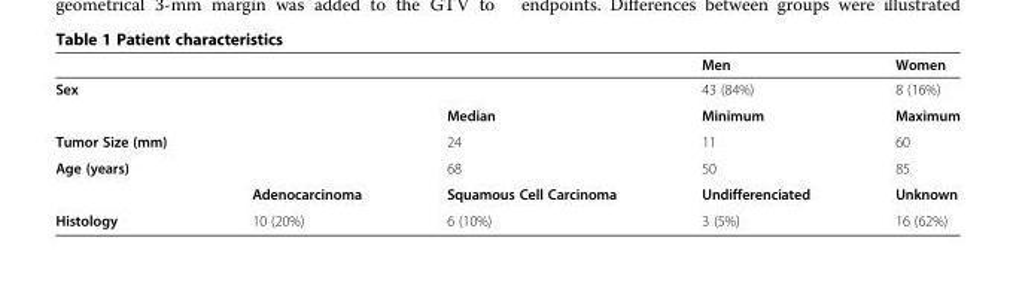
<table><thead><tr><td></td><td></td><td></td><td>Men</td><td>Women</td></tr></thead><tbody><tr><td rowspan="2">Sex</td><td></td><td></td><td>43 (84%)</td><td>8 (16%)</td></tr><tr><td></td><td>Median</td><td>Minimum</td><td>Maximum</td></tr><tr><td>Tumor Size (mm)</td><td></td><td>24</td><td>11</td><td>60</td></tr><tr><td rowspan="2">Age (years)</td><td></td><td>68</td><td>50</td><td>85</td></tr><tr><td>Adenocarcinoma</td><td>Squamous Cell Carcinoma</td><td>Undifferenciated</td><td>Unknown</td></tr><tr><td>Histology</td><td>10 (20%)</td><td>6 (10%)</td><td>3 (5%)</td><td>16 (62%)</td></tr></tbody></table>